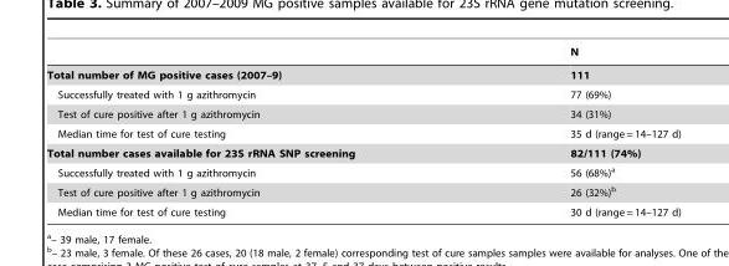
<table><thead><tr><td></td><td>N</td></tr></thead><tbody><tr><td>Total number of MG positive cases (2007–9)</td><td>111</td></tr><tr><td>Successfully treated with 1 g azithromycin</td><td>77 (69%)</td></tr><tr><td>Test of cure positive after 1 g azithromycin</td><td>34 (31%)</td></tr><tr><td>Median time for test of cure testing</td><td>35 d (range = 14–127 d)</td></tr><tr><td>Total number cases available for 23S rRNA SNP screening</td><td>82/111 (74%)</td></tr><tr><td>Successfully treated with 1 g azithromycin</td><td>56 (68%)<sup>a</sup></td></tr><tr><td>Test of cure positive after 1 g azithromycin</td><td>26 (32%)<sup>b</sup></td></tr><tr><td>Median time for test of cure testing</td><td>30 d (range = 14–127 d)</td></tr></tbody></table>